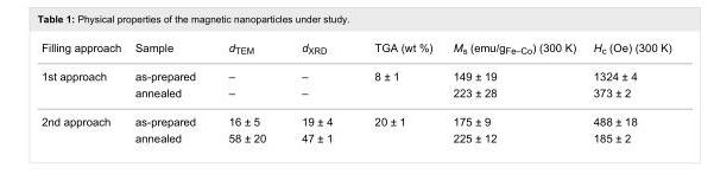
<table><tbody><tr><td>Filling approach</td><td>Sample</td><td>d<sub>TEM</sub></td><td>d<sub>XRD</sub></td><td>TGA (wt %)</td><td>M<sub>s</sub> (emu/g<sub>Fe–Co</sub>) (300 K)</td><td>H<sub>c</sub> (Oe) (300 K)</td></tr><tr><td rowspan="2">1st approach</td><td>as-prepared</td><td>–</td><td>–</td><td rowspan="2">8 ± 1</td><td>149 ± 19</td><td>1324 ± 4</td></tr><tr><td>annealed</td><td>–</td><td>–</td><td>223 ± 28</td><td>373 ± 2</td></tr><tr><td rowspan="2">2nd approach</td><td>as-prepared</td><td>16 ± 5</td><td>19 ± 4</td><td rowspan="2">20 ± 1</td><td>175 ± 9</td><td>488 ± 18</td></tr><tr><td>annealed</td><td>58 ± 20</td><td>47 ± 1</td><td>225 ± 12</td><td>185 ± 2</td></tr></tbody></table>